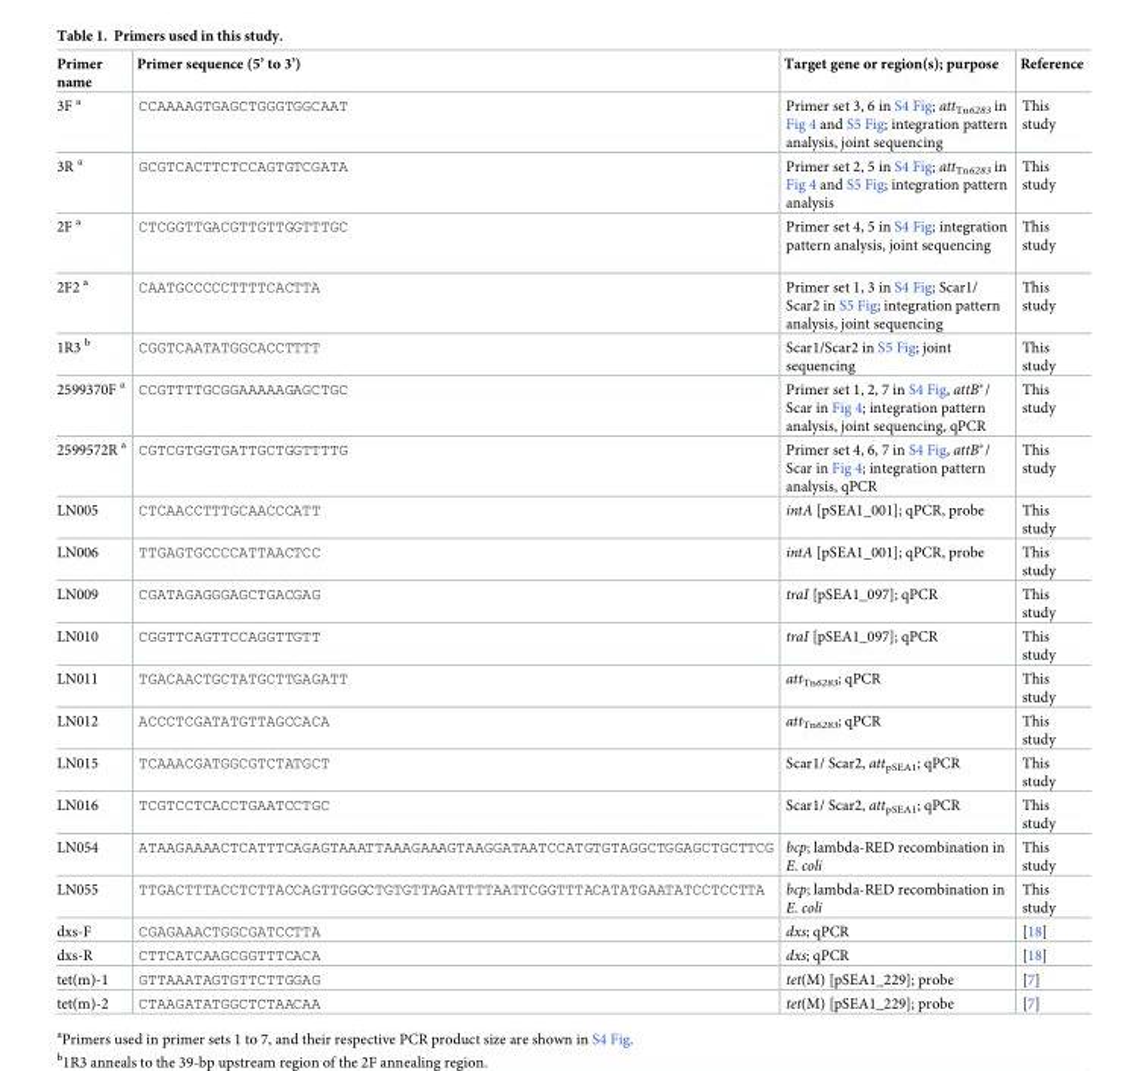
<table><thead><tr><td>Primer name</td><td>Primer sequence (5’ to 3’)</td><td>Target gene or region(s); purpose</td><td>Reference</td></tr></thead><tbody><tr><td>3F <sup>a</sup></td><td>CCAAAAGTGAGCTGGGTGGCAAT</td><td>Primer set 3, 6 in S4 Fig; att<sub>Tn6283</sub> in Fig 4 and S5 Fig; integration pattern analysis, joint sequencing</td><td>This study</td></tr><tr><td>3R <sup>a</sup></td><td>GCGTCACTTCTCCAGTGTCGATA</td><td>Primer set 2, 5 in S4 Fig; att<sub>Tn6283</sub> in Fig 4 and S5 Fig; integration pattern analysis</td><td>This study</td></tr><tr><td>2F <sup>a</sup></td><td>CTCGGTTGACGTTGTTGGTTTGC</td><td>Primer set 4, 5 in S4 Fig; integration pattern analysis, joint sequencing</td><td>This study</td></tr><tr><td>2F2 <sup>a</sup></td><td>CAATGCCCCCTTTTCACTTA</td><td>Primer set 1, 3 in S4 Fig; Scar1/ Scar2 in S5 Fig; integration pattern analysis, joint sequencing</td><td>This study</td></tr><tr><td>1R3 <sup>b</sup></td><td>CGGTCAATATGGCACCTTTT</td><td>Scar1/Scar2 in S5 Fig; joint sequencing</td><td>This study</td></tr><tr><td>2599370F <sup>a</sup></td><td>CCGTTTTGCGGAAAAAGAGCTGC</td><td>Primer set 1, 2, 7 in S4 Fig, attB*/ Scar in Fig 4; integration pattern analysis, joint sequencing, qPCR</td><td>This study</td></tr><tr><td>2599572R <sup>a</sup></td><td>CGTCGTGGTGATTGCTGGTTTTG</td><td>Primer set 4, 6, 7 in S4 Fig, attB*/ Scar in Fig 4; integration pattern analysis, qPCR</td><td>This study</td></tr><tr><td>LN005</td><td>CTCAACCTTTGCAACCCATT</td><td>intA [pSEA1_001]; qPCR, probe</td><td>This study</td></tr><tr><td>LN006</td><td>TTGAGTGCCCCATTAACTCC</td><td>intA [pSEA1_001]; qPCR, probe</td><td>This study</td></tr><tr><td>LN009</td><td>CGATAGAGGGAGCTGACGAG</td><td>traI [pSEA1_097]; qPCR</td><td>This study</td></tr><tr><td>LN010</td><td>CGGTTCAGTTCCAGGTTGTT</td><td>traI [pSEA1_097]; qPCR</td><td>This study</td></tr><tr><td>LN011</td><td>TGACAACTGCTATGCTTGAGATT</td><td>att<sub>Tn6283</sub>; qPCR</td><td>This study</td></tr><tr><td>LN012</td><td>ACCCTCGATATGTTAGCCACA</td><td>att<sub>Tn6283</sub>; qPCR</td><td>This study</td></tr><tr><td>LN015</td><td>TCAAACGATGGCGTCTATGCT</td><td>Scar1/ Scar2, att<sub>pSEA1</sub>; qPCR</td><td>This study</td></tr><tr><td>LN016</td><td>TCGTCCTCACCTGAATCCTGC</td><td>Scar1/ Scar2, att<sub>pSEA1</sub>; qPCR</td><td>This study</td></tr><tr><td>LN054</td><td>ATAAGAAAACTCATTTCAGAGTAAATTAAAGAAAGTAAGGATAATCCATGTGTAGGCTGGAGCTGCTTCG</td><td>bcp; lambda-RED recombination in E. coli</td><td>This study</td></tr><tr><td>LN055</td><td>TTGACTTTACCTCTTACCAGTTGGGCTGTGTTAGATTTTAATTCGGTTTACATATGAATATCCTCCTTA</td><td>bcp; lambda-RED recombination in E. coli</td><td>This study</td></tr><tr><td>dxs-F</td><td>CGAGAAACTGGCGATCCTTA</td><td>dxs; qPCR</td><td>[18]</td></tr><tr><td>dxs-R</td><td>CTTCATCAAGCGGTTTCACA</td><td>dxs; qPCR</td><td>[18]</td></tr><tr><td>tet(m)-1</td><td>GTTAAATAGTGTTCTTGGAG</td><td>tet(M) [pSEA1_229]; probe</td><td>[7]</td></tr><tr><td>tet(m)-2</td><td>CTAAGATATGGCTCTAACAA</td><td>tet(M) [pSEA1_229]; probe</td><td>[7]</td></tr></tbody></table>